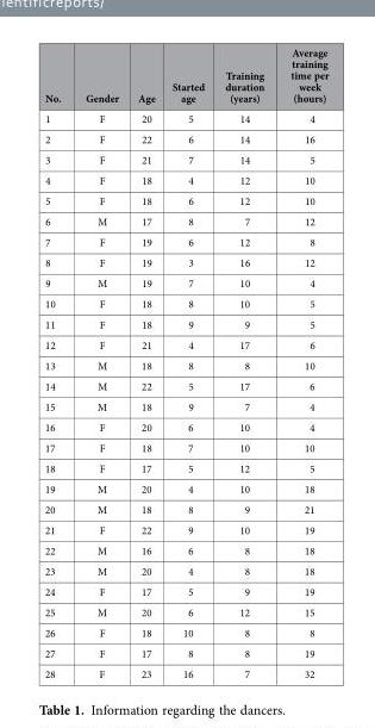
<table><thead><tr><td>No.</td><td>Gender</td><td>Age</td><td>Started age</td><td>Training duration (years)</td><td>Average training time per week (hours)</td></tr></thead><tbody><tr><td>1</td><td>F</td><td>20</td><td>5</td><td>14</td><td>4</td></tr><tr><td>2</td><td>F</td><td>22</td><td>6</td><td>14</td><td>16</td></tr><tr><td>3</td><td>F</td><td>21</td><td>7</td><td>14</td><td>5</td></tr><tr><td>4</td><td>F</td><td>18</td><td>4</td><td>12</td><td>10</td></tr><tr><td>5</td><td>F</td><td>18</td><td>6</td><td>12</td><td>10</td></tr><tr><td>6</td><td>M</td><td>17</td><td>8</td><td>7</td><td>12</td></tr><tr><td>7</td><td>F</td><td>19</td><td>6</td><td>12</td><td>8</td></tr><tr><td>8</td><td>F</td><td>19</td><td>3</td><td>16</td><td>12</td></tr><tr><td>9</td><td>M</td><td>19</td><td>7</td><td>10</td><td>4</td></tr><tr><td>10</td><td>F</td><td>18</td><td>8</td><td>10</td><td>5</td></tr><tr><td>11</td><td>F</td><td>18</td><td>9</td><td>9</td><td>5</td></tr><tr><td>12</td><td>F</td><td>21</td><td>4</td><td>17</td><td>6</td></tr><tr><td>13</td><td>M</td><td>18</td><td>8</td><td>8</td><td>10</td></tr><tr><td>14</td><td>M</td><td>22</td><td>5</td><td>17</td><td>6</td></tr><tr><td>15</td><td>M</td><td>18</td><td>9</td><td>7</td><td>4</td></tr><tr><td>16</td><td>F</td><td>20</td><td>6</td><td>10</td><td>4</td></tr><tr><td>17</td><td>F</td><td>18</td><td>7</td><td>10</td><td>10</td></tr><tr><td>18</td><td>F</td><td>17</td><td>5</td><td>12</td><td>5</td></tr><tr><td>19</td><td>M</td><td>20</td><td>4</td><td>10</td><td>18</td></tr><tr><td>20</td><td>M</td><td>18</td><td>8</td><td>9</td><td>21</td></tr><tr><td>21</td><td>F</td><td>22</td><td>9</td><td>10</td><td>19</td></tr><tr><td>22</td><td>M</td><td>16</td><td>6</td><td>8</td><td>18</td></tr><tr><td>23</td><td>M</td><td>20</td><td>4</td><td>8</td><td>18</td></tr><tr><td>24</td><td>F</td><td>17</td><td>5</td><td>9</td><td>19</td></tr><tr><td>25</td><td>M</td><td>20</td><td>6</td><td>12</td><td>15</td></tr><tr><td>26</td><td>F</td><td>18</td><td>10</td><td>8</td><td>8</td></tr><tr><td>27</td><td>F</td><td>17</td><td>8</td><td>8</td><td>19</td></tr><tr><td>28</td><td>F</td><td>23</td><td>16</td><td>7</td><td>32</td></tr></tbody></table>